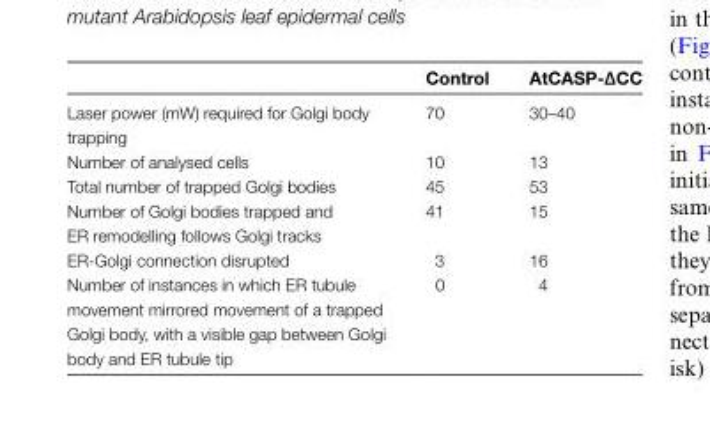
<table><thead><tr><td></td><td>Control</td><td>AtCASP-∆CC</td></tr></thead><tbody><tr><td>Laser power (mW) required for Golgi body trapping</td><td>70</td><td>30–40</td></tr><tr><td>Number of analysed cells</td><td>10</td><td>13</td></tr><tr><td>Total number of trapped Golgi bodies</td><td>45</td><td>53</td></tr><tr><td>Number of Golgi bodies trapped and ER remodelling follows Golgi tracks</td><td>41</td><td>15</td></tr><tr><td>ER-Golgi connection disrupted</td><td>3</td><td>16</td></tr><tr><td>Number of instances in which ER tubule movement mirrored movement of a trapped Golgi body, with a visible gap between Golgi body and ER tubule tip</td><td>0</td><td>4</td></tr></tbody></table>